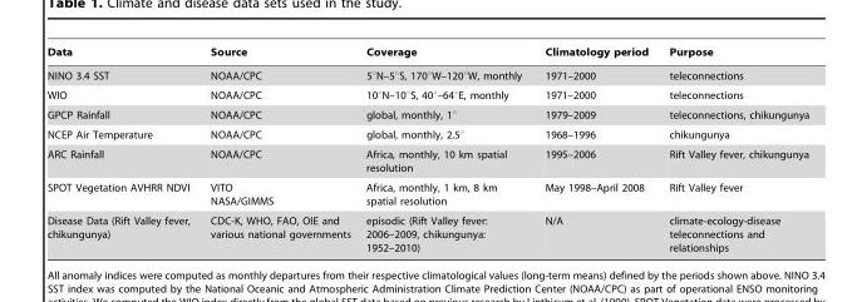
<table><thead><tr><td>Data</td><td>Source</td><td>Coverage</td><td>Climatology period</td><td>Purpose</td></tr></thead><tbody><tr><td>NINO 3.4 SST</td><td>NOAA/CPC</td><td>5°N–5°S, 170°W–120°W, monthly</td><td>1971–2000</td><td>teleconnections</td></tr><tr><td>WIO</td><td>NOAA/CPC</td><td>10°N–10°S, 40°–64°E, monthly</td><td>1971–2000</td><td>teleconnections</td></tr><tr><td>GPCP Rainfall</td><td>NOAA/CPC</td><td>global, monthly, 1°</td><td>1979–2009</td><td>teleconnections, chikungunya</td></tr><tr><td>NCEP Air Temperature</td><td>NOAA/CPC</td><td>global, monthly, 2.5°</td><td>1968–1996</td><td>chikungunya</td></tr><tr><td>ARC Rainfall</td><td>NOAA/CPC</td><td>Africa, monthly, 10 km spatial resolution</td><td>1995–2006</td><td>Rift Valley fever, chikungunya</td></tr><tr><td>SPOT Vegetation AVHRR NDVI</td><td>VITO NASA/GIMMS</td><td>Africa, monthly, 1 km, 8 km spatial resolution</td><td>May 1998–April 2008</td><td>Rift Valley fever</td></tr><tr><td>Disease Data (Rift Valley fever, chikungunya)</td><td>CDC-K, WHO, FAO, OIE and various national governments</td><td>episodic (Rift Valley fever: 2006–2009, chikungunya: 1952–2010)</td><td>N/A</td><td>climate-ecology-disease teleconnections and relationships</td></tr></tbody></table>